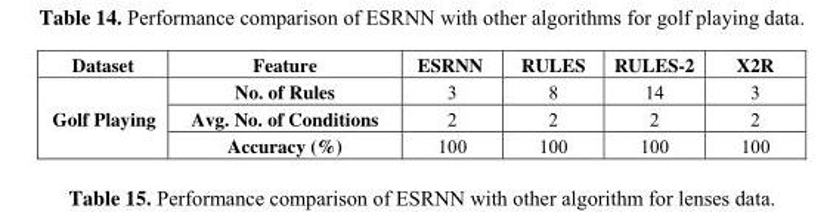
<table><thead><tr><td>Dataset</td><td>Feature</td><td>ESRNN</td><td>RULES</td><td>RULES-2</td><td>X2R</td></tr></thead><tbody><tr><td rowspan="3">Golf Playing</td><td>No. of Rules</td><td>3</td><td>8</td><td>14</td><td>3</td></tr><tr><td>Avg. No. of Conditions</td><td>2</td><td>2</td><td>2</td><td>2</td></tr><tr><td>Accuracy (%)</td><td>100</td><td>100</td><td>100</td><td>100</td></tr></tbody></table>